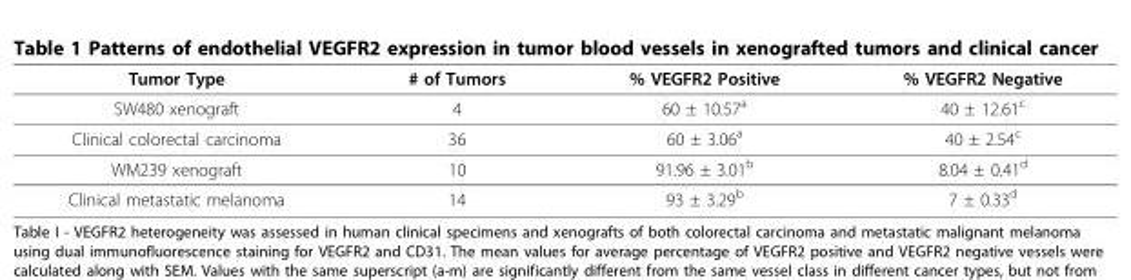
<table><thead><tr><td>Tumor Type</td><td># of Tumors</td><td>% VEGFR2 Positive</td><td>% VEGFR2 Negative</td></tr></thead><tbody><tr><td>SW480 xenograft</td><td>4</td><td>60 ± 10.57<sup>a</sup></td><td>40 ± 12.61<sup>c</sup></td></tr><tr><td>Clinical colorectal carcinoma</td><td>36</td><td>60 ± 3.06<sup>a</sup></td><td>40 ± 2.54<sup>c</sup></td></tr><tr><td>WM239 xenograft</td><td>10</td><td>91.96 ± 3.01<sup>b</sup></td><td>8.04 ± 0.41<sup>d</sup></td></tr><tr><td>Clinical metastatic melanoma</td><td>14</td><td>93 ± 3.29<sup>b</sup></td><td>7 ± 0.33<sup>d</sup></td></tr></tbody></table>